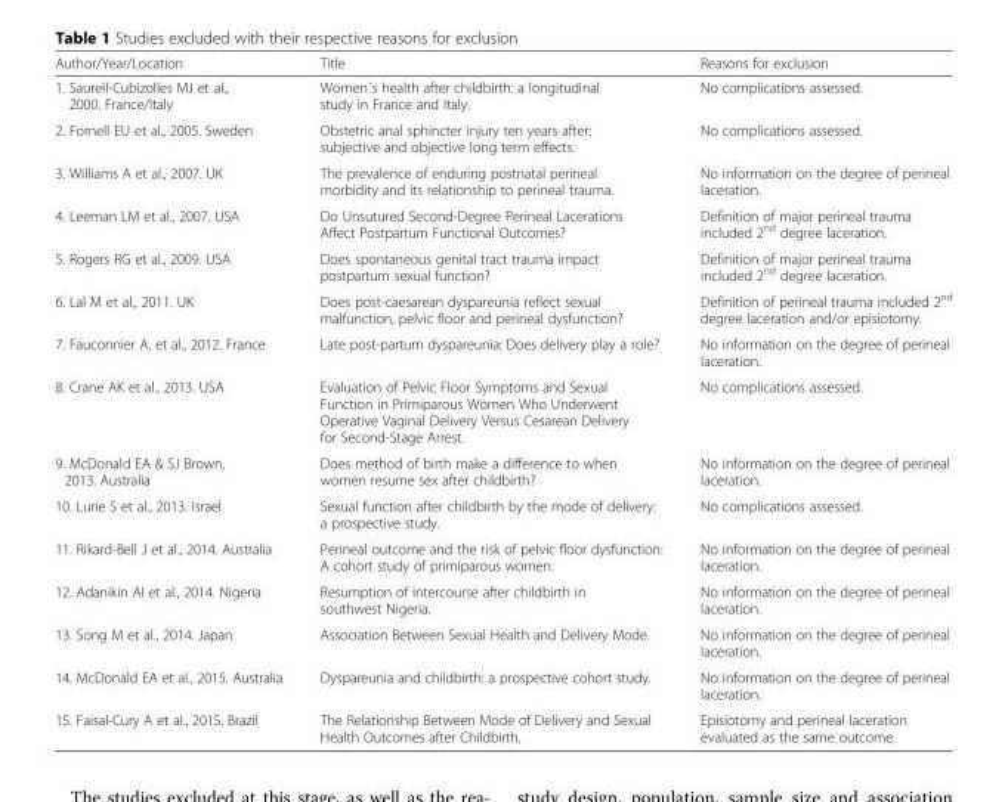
<table><thead><tr><td>Author/Year/Location</td><td>Title</td><td>Reasons for exclusion</td></tr></thead><tbody><tr><td>1. Saurell-Cubizolles MJ et al., 2000. France/Italy</td><td>Women´s health after childbirth: a longitudinal study in France and Italy.</td><td>No complications assessed.</td></tr><tr><td>2. Fornell EU et al., 2005. Sweden</td><td>Obstetric anal sphincter injury ten years after: subjective and objective long term effects.</td><td>No complications assessed.</td></tr><tr><td>3. Williams A et al., 2007. UK</td><td>The prevalence of enduring postnatal perineal morbidity and its relationship to perineal trauma.</td><td>No information on the degree of perineal laceration.</td></tr><tr><td>4. Leeman LM et al., 2007. USA</td><td>Do Unsutured Second-Degree Perineal Lacerations Affect Postpartum Functional Outcomes?</td><td>Definition of major perineal trauma included 2<sup>nd</sup> degree laceration.</td></tr><tr><td>5. Rogers RG et al., 2009. USA</td><td>Does spontaneous genital tract trauma impact postpartum sexual function?</td><td>Definition of major perineal trauma included 2<sup>nd</sup> degree laceration.</td></tr><tr><td>6. Lal M et al., 2011. UK</td><td>Does post-caesarean dyspareunia reflect sexual malfunction, pelvic floor and perineal dysfunction?</td><td>Definition of perineal trauma included 2<sup>nd</sup> degree laceration and/or episiotomy.</td></tr><tr><td>7. Fauconnier A, et al., 2012. France</td><td>Late post-partum dyspareunia: Does delivery play a role?</td><td>No information on the degree of perineal laceration.</td></tr><tr><td>8. Crane AK et al., 2013. USA</td><td>Evaluation of Pelvic Floor Symptoms and Sexual Function in Primiparous Women Who Underwent Operative Vaginal Delivery Versus Cesarean Delivery for Second-Stage Arrest.</td><td>No complications assessed.</td></tr><tr><td>9. McDonald EA &amp; SJ Brown, 2013. Australia</td><td>Does method of birth make a difference to when women resume sex after childbirth?</td><td>No information on the degree of perineal laceration.</td></tr><tr><td>10. Lurie S et al., 2013. Israel</td><td>Sexual function after childbirth by the mode of delivery: a prospective study.</td><td>No complications assessed.</td></tr><tr><td>11. Rikard-Bell J et al., 2014. Australia</td><td>Perineal outcome and the risk of pelvic floor dysfunction: A cohort study of primiparous women.</td><td>No information on the degree of perineal laceration.</td></tr><tr><td>12. Adanikin AI et al., 2014. Nigeria</td><td>Resumption of intercourse after childbirth in southwest Nigeria.</td><td>No information on the degree of perineal laceration.</td></tr><tr><td>13. Song M et al., 2014. Japan</td><td>Association Between Sexual Health and Delivery Mode.</td><td>No information on the degree of perineal laceration.</td></tr><tr><td>14. McDonald EA et al., 2015. Australia</td><td>Dyspareunia and childbirth: a prospective cohort study.</td><td>No information on the degree of perineal laceration.</td></tr><tr><td>15. Faisal-Cury A et al., 2015. Brazil</td><td>The Relationship Between Mode of Delivery and Sexual Health Outcomes after Childbirth.</td><td>Episiotomy and perineal laceration evaluated as the same outcome.</td></tr></tbody></table>